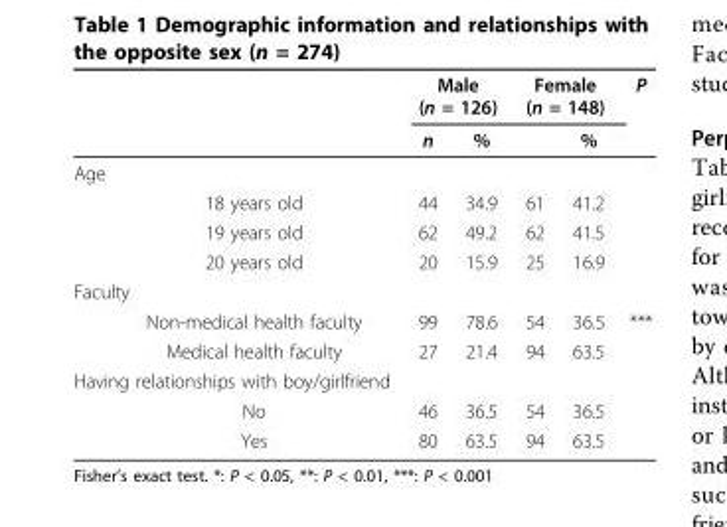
<table><thead><tr><td rowspan="2"></td><td colspan="2">Male (n = 126)</td><td colspan="2">Female (n = 148)</td><td rowspan="2">P</td></tr><tr><td>n</td><td>%</td><td></td><td>%</td></tr></thead><tbody><tr><td colspan="6">Age</td></tr><tr><td>18 years old</td><td>44</td><td>34.9</td><td>61</td><td>41.2</td><td></td></tr><tr><td>19 years old</td><td>62</td><td>49.2</td><td>62</td><td>41.5</td><td></td></tr><tr><td>20 years old</td><td>20</td><td>15.9</td><td>25</td><td>16.9</td><td></td></tr><tr><td colspan="6">Faculty</td></tr><tr><td>Non-medical health faculty</td><td>99</td><td>78.6</td><td>54</td><td>36.5</td><td>***</td></tr><tr><td>Medical health faculty</td><td>27</td><td>21.4</td><td>94</td><td>63.5</td><td></td></tr><tr><td colspan="6">Having relationships with boy/girlfriend</td></tr><tr><td>No</td><td>46</td><td>36.5</td><td>54</td><td>36.5</td><td></td></tr><tr><td>Yes</td><td>80</td><td>63.5</td><td>94</td><td>63.5</td><td></td></tr></tbody></table>